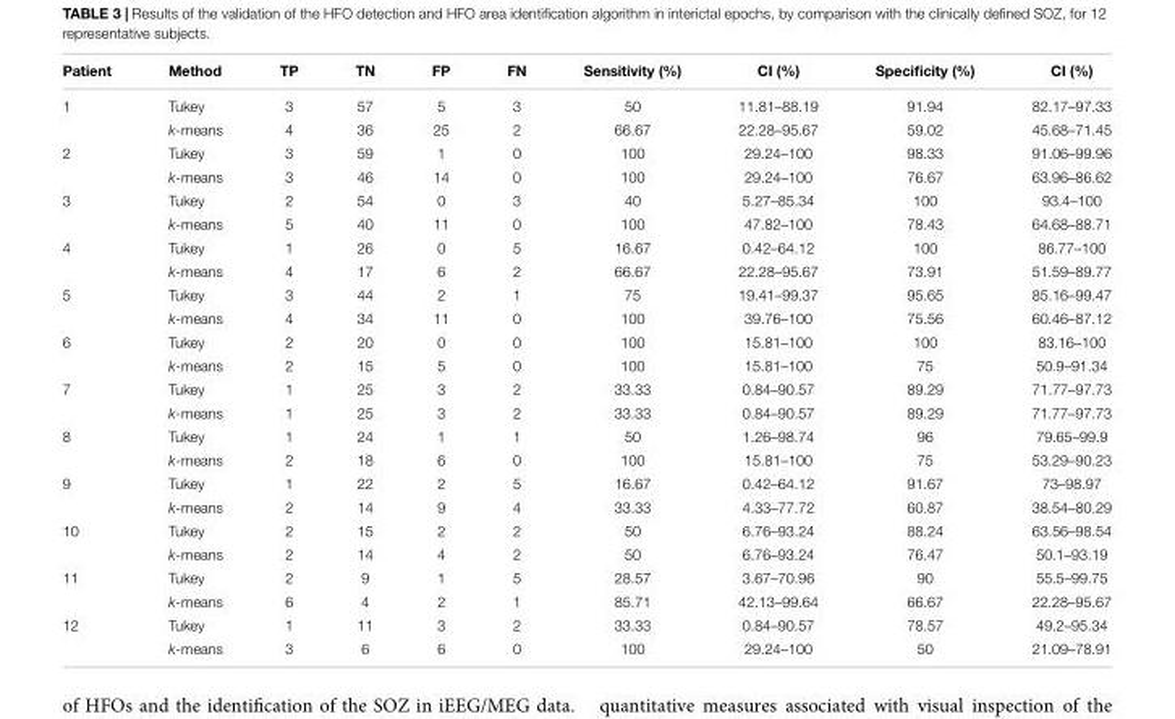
<table><thead><tr><td>Patient</td><td>Method</td><td>TP</td><td>TN</td><td>FP</td><td>FN</td><td>Sensitivity (%)</td><td>CI (%)</td><td>Specificity (%)</td><td>CI (%)</td></tr></thead><tbody><tr><td rowspan="2">1</td><td>Tukey</td><td>3</td><td>57</td><td>5</td><td>3</td><td>50</td><td>11.81–88.19</td><td>91.94</td><td>82.17–97.33</td></tr><tr><td>k-means</td><td>4</td><td>36</td><td>25</td><td>2</td><td>66.67</td><td>22.28–95.67</td><td>59.02</td><td>45.68–71.45</td></tr><tr><td rowspan="2">2</td><td>Tukey</td><td>3</td><td>59</td><td>1</td><td>0</td><td>100</td><td>29.24–100</td><td>98.33</td><td>91.06–99.96</td></tr><tr><td>k-means</td><td>3</td><td>46</td><td>14</td><td>0</td><td>100</td><td>29.24–100</td><td>76.67</td><td>63.96–86.62</td></tr><tr><td rowspan="2">3</td><td>Tukey</td><td>2</td><td>54</td><td>0</td><td>3</td><td>40</td><td>5.27–85.34</td><td>100</td><td>93.4–100</td></tr><tr><td>k-means</td><td>5</td><td>40</td><td>11</td><td>0</td><td>100</td><td>47.82–100</td><td>78.43</td><td>64.68–88.71</td></tr><tr><td rowspan="2">4</td><td>Tukey</td><td>1</td><td>26</td><td>0</td><td>5</td><td>16.67</td><td>0.42–64.12</td><td>100</td><td>86.77–100</td></tr><tr><td>k-means</td><td>4</td><td>17</td><td>6</td><td>2</td><td>66.67</td><td>22.28–95.67</td><td>73.91</td><td>51.59–89.77</td></tr><tr><td rowspan="2">5</td><td>Tukey</td><td>3</td><td>44</td><td>2</td><td>1</td><td>75</td><td>19.41–99.37</td><td>95.65</td><td>85.16–99.47</td></tr><tr><td>k-means</td><td>4</td><td>34</td><td>11</td><td>0</td><td>100</td><td>39.76–100</td><td>75.56</td><td>60.46–87.12</td></tr><tr><td rowspan="2">6</td><td>Tukey</td><td>2</td><td>20</td><td>0</td><td>0</td><td>100</td><td>15.81–100</td><td>100</td><td>83.16–100</td></tr><tr><td>k-means</td><td>2</td><td>15</td><td>5</td><td>0</td><td>100</td><td>15.81–100</td><td>75</td><td>50.9–91.34</td></tr><tr><td rowspan="2">7</td><td>Tukey</td><td>1</td><td>25</td><td>3</td><td>2</td><td>33.33</td><td>0.84–90.57</td><td>89.29</td><td>71.77–97.73</td></tr><tr><td>k-means</td><td>1</td><td>25</td><td>3</td><td>2</td><td>33.33</td><td>0.84–90.57</td><td>89.29</td><td>71.77–97.73</td></tr><tr><td rowspan="2">8</td><td>Tukey</td><td>1</td><td>24</td><td>1</td><td>1</td><td>50</td><td>1.26–98.74</td><td>96</td><td>79.65–99.9</td></tr><tr><td>k-means</td><td>2</td><td>18</td><td>6</td><td>0</td><td>100</td><td>15.81–100</td><td>75</td><td>53.29–90.23</td></tr><tr><td rowspan="2">9</td><td>Tukey</td><td>1</td><td>22</td><td>2</td><td>5</td><td>16.67</td><td>0.42–64.12</td><td>91.67</td><td>73–98.97</td></tr><tr><td>k-means</td><td>2</td><td>14</td><td>9</td><td>4</td><td>33.33</td><td>4.33–77.72</td><td>60.87</td><td>38.54–80.29</td></tr><tr><td rowspan="2">10</td><td>Tukey</td><td>2</td><td>15</td><td>2</td><td>2</td><td>50</td><td>6.76–93.24</td><td>88.24</td><td>63.56–98.54</td></tr><tr><td>k-means</td><td>2</td><td>14</td><td>4</td><td>2</td><td>50</td><td>6.76–93.24</td><td>76.47</td><td>50.1–93.19</td></tr><tr><td rowspan="2">11</td><td>Tukey</td><td>2</td><td>9</td><td>1</td><td>5</td><td>28.57</td><td>3.67–70.96</td><td>90</td><td>55.5–99.75</td></tr><tr><td>k-means</td><td>6</td><td>4</td><td>2</td><td>1</td><td>85.71</td><td>42.13–99.64</td><td>66.67</td><td>22.28–95.67</td></tr><tr><td rowspan="2">12</td><td>Tukey</td><td>1</td><td>11</td><td>3</td><td>2</td><td>33.33</td><td>0.84–90.57</td><td>78.57</td><td>49.2–95.34</td></tr><tr><td>k-means</td><td>3</td><td>6</td><td>6</td><td>0</td><td>100</td><td>29.24–100</td><td>50</td><td>21.09–78.91</td></tr></tbody></table>